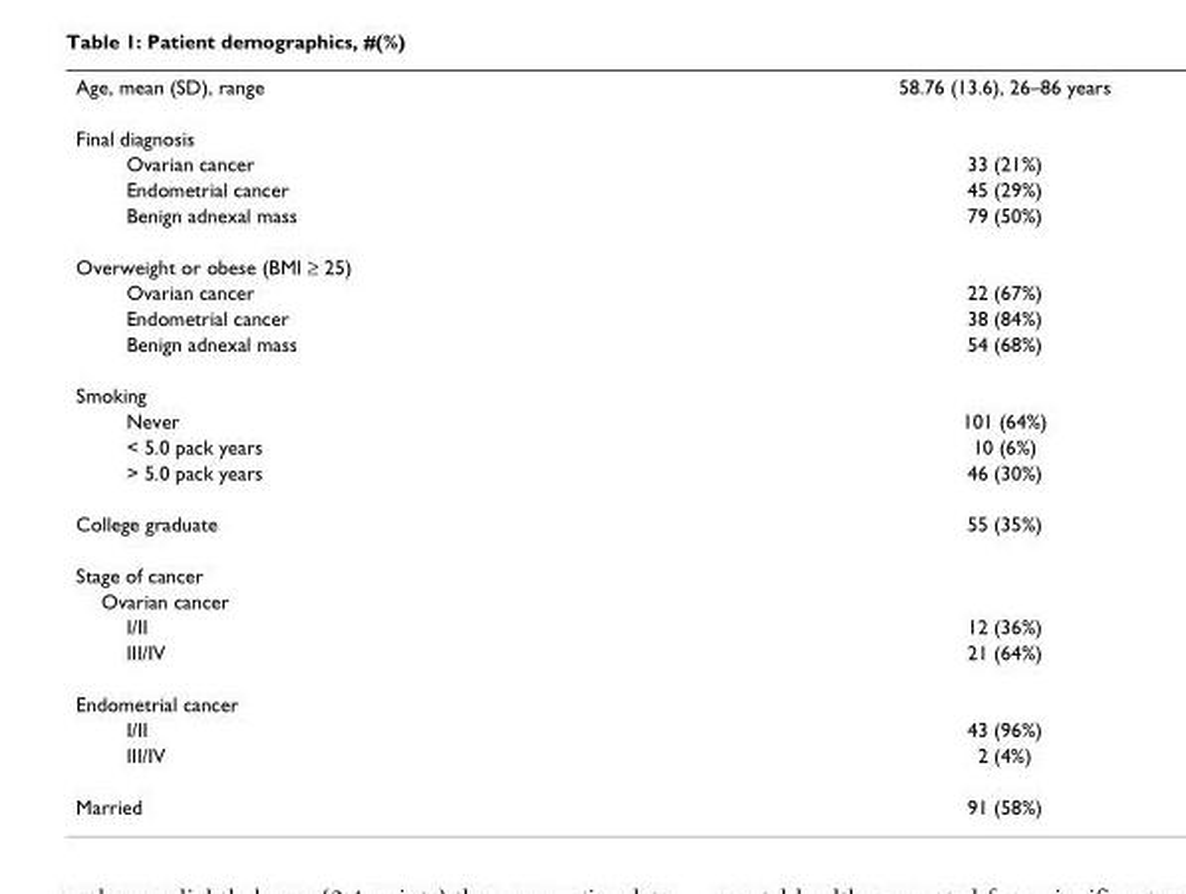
<table><tbody><tr><td>Age, mean (SD), range</td><td>58.76 (13.6), 26–86 years</td></tr><tr><td colspan="2">Final diagnosis</td></tr><tr><td>Ovarian cancer</td><td>33 (21%)</td></tr><tr><td>Endometrial cancer</td><td>45 (29%)</td></tr><tr><td>Benign adnexal mass</td><td>79 (50%)</td></tr><tr><td colspan="2">Overweight or obese (BMI ≥ 25)</td></tr><tr><td>Ovarian cancer</td><td>22 (67%)</td></tr><tr><td>Endometrial cancer</td><td>38 (84%)</td></tr><tr><td>Benign adnexal mass</td><td>54 (68%)</td></tr><tr><td colspan="2">Smoking</td></tr><tr><td>Never</td><td>101 (64%)</td></tr><tr><td>&lt; 5.0 pack years</td><td>10 (6%)</td></tr><tr><td>&gt; 5.0 pack years</td><td>46 (30%)</td></tr><tr><td>College graduate</td><td>55 (35%)</td></tr><tr><td colspan="2">Stage of cancer</td></tr><tr><td colspan="2">Ovarian cancer</td></tr><tr><td>I/II</td><td>12 (36%)</td></tr><tr><td>III/IV</td><td>21 (64%)</td></tr><tr><td colspan="2">Endometrial cancer</td></tr><tr><td>I/II</td><td>43 (96%)</td></tr><tr><td>III/IV</td><td>2 (4%)</td></tr><tr><td>Married</td><td>91 (58%)</td></tr></tbody></table>